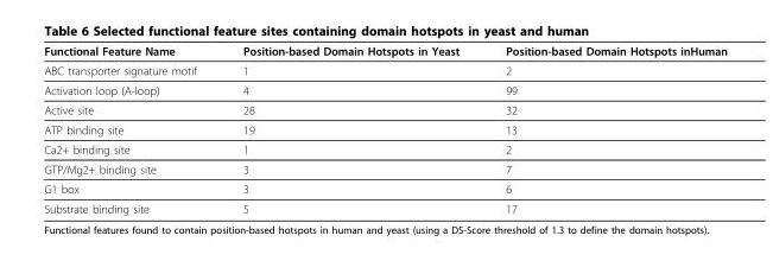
<table><thead><tr><td>Functional Feature Name</td><td>Position-based Domain Hotspots in Yeast</td><td>Position-based Domain Hotspots inHuman</td></tr></thead><tbody><tr><td>ABC transporter signature motif</td><td>1</td><td>2</td></tr><tr><td>Activation loop (A-loop)</td><td>4</td><td>99</td></tr><tr><td>Active site</td><td>28</td><td>32</td></tr><tr><td>ATP binding site</td><td>19</td><td>13</td></tr><tr><td>Ca2+ binding site</td><td>1</td><td>2</td></tr><tr><td>GTP/Mg2+ binding site</td><td>3</td><td>7</td></tr><tr><td>G1 box</td><td>3</td><td>6</td></tr><tr><td>Substrate binding site</td><td>5</td><td>17</td></tr></tbody></table>